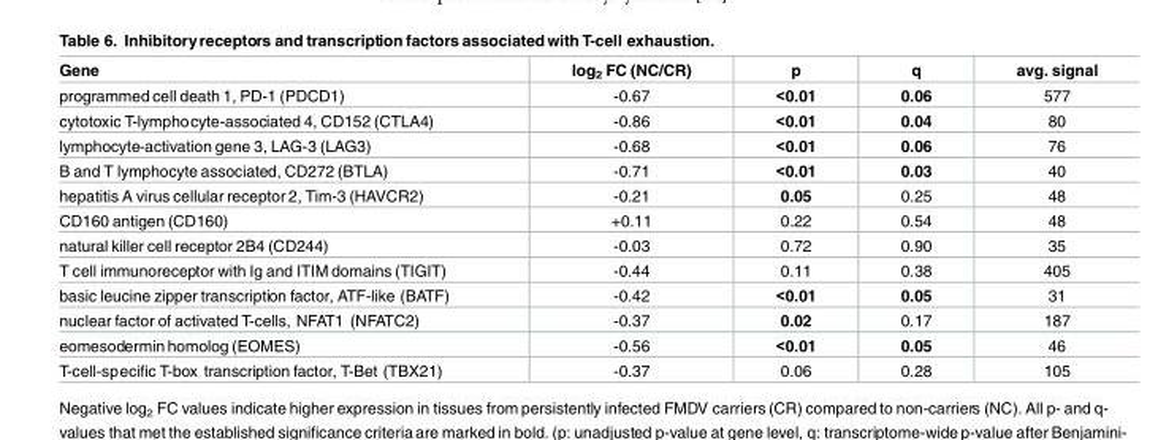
<table><thead><tr><td>Gene</td><td>log<sub>2</sub> FC (NC/CR)</td><td>p</td><td>q</td><td>avg. signal</td></tr></thead><tbody><tr><td>programmed cell death 1, PD-1 (PDCD1)</td><td>-0.67</td><td>&lt;0.01</td><td>0.06</td><td>577</td></tr><tr><td>cytotoxic T-lymphocyte-associated 4, CD152 (CTLA4)</td><td>-0.86</td><td>&lt;0.01</td><td>0.04</td><td>80</td></tr><tr><td>lymphocyte-activation gene 3, LAG-3 (LAG3)</td><td>-0.68</td><td>&lt;0.01</td><td>0.06</td><td>76</td></tr><tr><td>B and T lymphocyte associated, CD272 (BTLA)</td><td>-0.71</td><td>&lt;0.01</td><td>0.03</td><td>40</td></tr><tr><td>hepatitis A virus cellular receptor 2, Tim-3 (HAVCR2)</td><td>-0.21</td><td>0.05</td><td>0.25</td><td>48</td></tr><tr><td>CD160 antigen (CD160)</td><td>+0.11</td><td>0.22</td><td>0.54</td><td>48</td></tr><tr><td>natural killer cell receptor 2B4 (CD244)</td><td>-0.03</td><td>0.72</td><td>0.90</td><td>35</td></tr><tr><td>T cell immunoreceptor with Ig and ITIM domains (TIGIT)</td><td>-0.44</td><td>0.11</td><td>0.38</td><td>405</td></tr><tr><td>basic leucine zipper transcription factor, ATF-like (BATF)</td><td>-0.42</td><td>&lt;0.01</td><td>0.05</td><td>31</td></tr><tr><td>nuclear factor of activated T-cells, NFAT1 (NFATC2)</td><td>-0.37</td><td>0.02</td><td>0.17</td><td>187</td></tr><tr><td>eomesodermin homolog (EOMES)</td><td>-0.56</td><td>&lt;0.01</td><td>0.05</td><td>46</td></tr><tr><td>T-cell-specific T-box transcription factor, T-Bet (TBX21)</td><td>-0.37</td><td>0.06</td><td>0.28</td><td>105</td></tr></tbody></table>